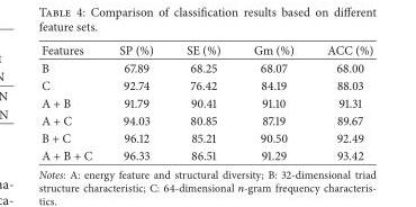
<table><thead><tr><td>Features</td><td>SP (%)</td><td>SE (%)</td><td>Gm (%)</td><td>ACC (%)</td></tr></thead><tbody><tr><td>B</td><td>67.89</td><td>68.25</td><td>68.07</td><td>68.00</td></tr><tr><td>C</td><td>92.74</td><td>76.42</td><td>84.19</td><td>88.03</td></tr><tr><td>A + B</td><td>91.79</td><td>90.41</td><td>91.10</td><td>91.31</td></tr><tr><td>A + C</td><td>94.03</td><td>80.85</td><td>87.19</td><td>89.67</td></tr><tr><td>B + C</td><td>96.12</td><td>85.21</td><td>90.50</td><td>92.49</td></tr><tr><td>A + B + C</td><td>96.33</td><td>86.51</td><td>91.29</td><td>93.42</td></tr></tbody></table>